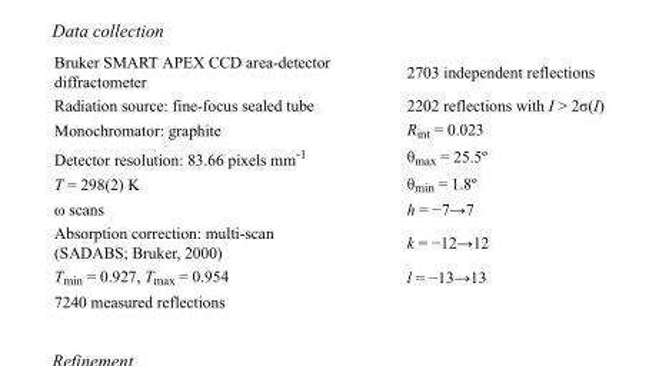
<table><tbody><tr><td>Bruker SMART APEX CCD area-detector diffractometer</td><td>2703 independent reflections</td></tr><tr><td>Radiation source: fine-focus sealed tube</td><td>2202 reflections with I &gt; 2σ(I)</td></tr><tr><td>Monochromator: graphite</td><td>R<sub>int</sub> = 0.023</td></tr><tr><td>Detector resolution: 83.66 pixels mm<sup>-1</sup></td><td>θ<sub>max</sub> = 25.5º</td></tr><tr><td>T = 298(2) K</td><td>θ<sub>min</sub> = 1.8º</td></tr><tr><td>ω scans</td><td>h = −7→7</td></tr><tr><td>Absorption correction: multi-scan (SADABS; Bruker, 2000)</td><td>k = −12→12</td></tr><tr><td>T<sub>min</sub> = 0.927, T<sub>max</sub> = 0.954</td><td>l = −13→13</td></tr><tr><td>7240 measured reflections</td><td></td></tr></tbody></table>